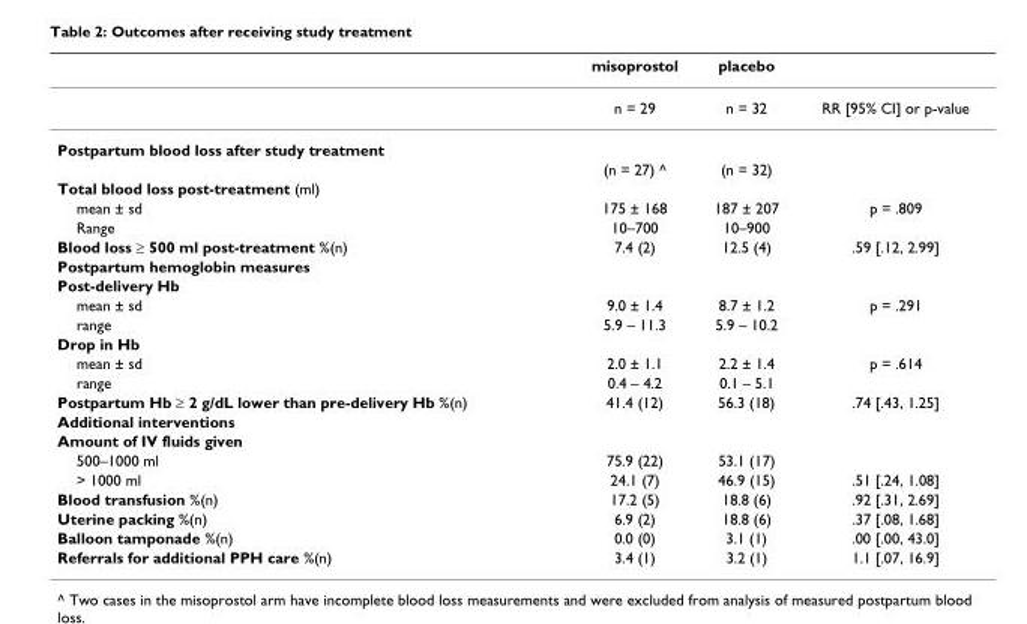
<table><thead><tr><td></td><td>misoprostol</td><td>placebo</td><td></td></tr></thead><tbody><tr><td></td><td>n = 29</td><td>n = 32</td><td>RR [95% CI] or p-value</td></tr><tr><td colspan="4">Postpartum blood loss after study treatment</td></tr><tr><td></td><td>(n = 27) ^</td><td>(n = 32)</td><td></td></tr><tr><td colspan="4">Total blood loss post-treatment (ml)</td></tr><tr><td>mean ± sd</td><td>175 ± 168</td><td>187 ± 207</td><td>p = .809</td></tr><tr><td>Range</td><td>10–700</td><td>10–900</td><td></td></tr><tr><td>Blood loss ≥ 500 ml post-treatment %(n)</td><td>7.4 (2)</td><td>12.5 (4)</td><td>.59 [.12, 2.99]</td></tr><tr><td colspan="4">Postpartum hemoglobin measures</td></tr><tr><td colspan="4">Post-delivery Hb</td></tr><tr><td>mean ± sd</td><td>9.0 ± 1.4</td><td>8.7 ± 1.2</td><td>p = .291</td></tr><tr><td>range</td><td>5.9 – 11.3</td><td>5.9 – 10.2</td><td></td></tr><tr><td colspan="4">Drop in Hb</td></tr><tr><td>mean ± sd</td><td>2.0 ± 1.1</td><td>2.2 ± 1.4</td><td>p = .614</td></tr><tr><td>range</td><td>0.4 – 4.2</td><td>0.1 – 5.1</td><td></td></tr><tr><td>Postpartum Hb ≥ 2 g/dL lower than pre-delivery Hb %(n)</td><td>41.4 (12)</td><td>56.3 (18)</td><td>.74 [.43, 1.25]</td></tr><tr><td colspan="4">Additional interventions</td></tr><tr><td colspan="4">Amount of IV fluids given</td></tr><tr><td>500–1000 ml</td><td>75.9 (22)</td><td>53.1 (17)</td><td></td></tr><tr><td>&gt; 1000 ml</td><td>24.1 (7)</td><td>46.9 (15)</td><td>.51 [.24, 1.08]</td></tr><tr><td>Blood transfusion %(n)</td><td>17.2 (5)</td><td>18.8 (6)</td><td>.92 [.31, 2.69]</td></tr><tr><td>Uterine packing %(n)</td><td>6.9 (2)</td><td>18.8 (6)</td><td>.37 [.08, 1.68]</td></tr><tr><td>Balloon tamponade %(n)</td><td>0.0 (0)</td><td>3.1 (1)</td><td>.00 [.00, 43.0]</td></tr><tr><td>Referrals for additional PPH care %(n)</td><td>3.4 (1)</td><td>3.2 (1)</td><td>1.1 [.07, 16.9]</td></tr></tbody></table>